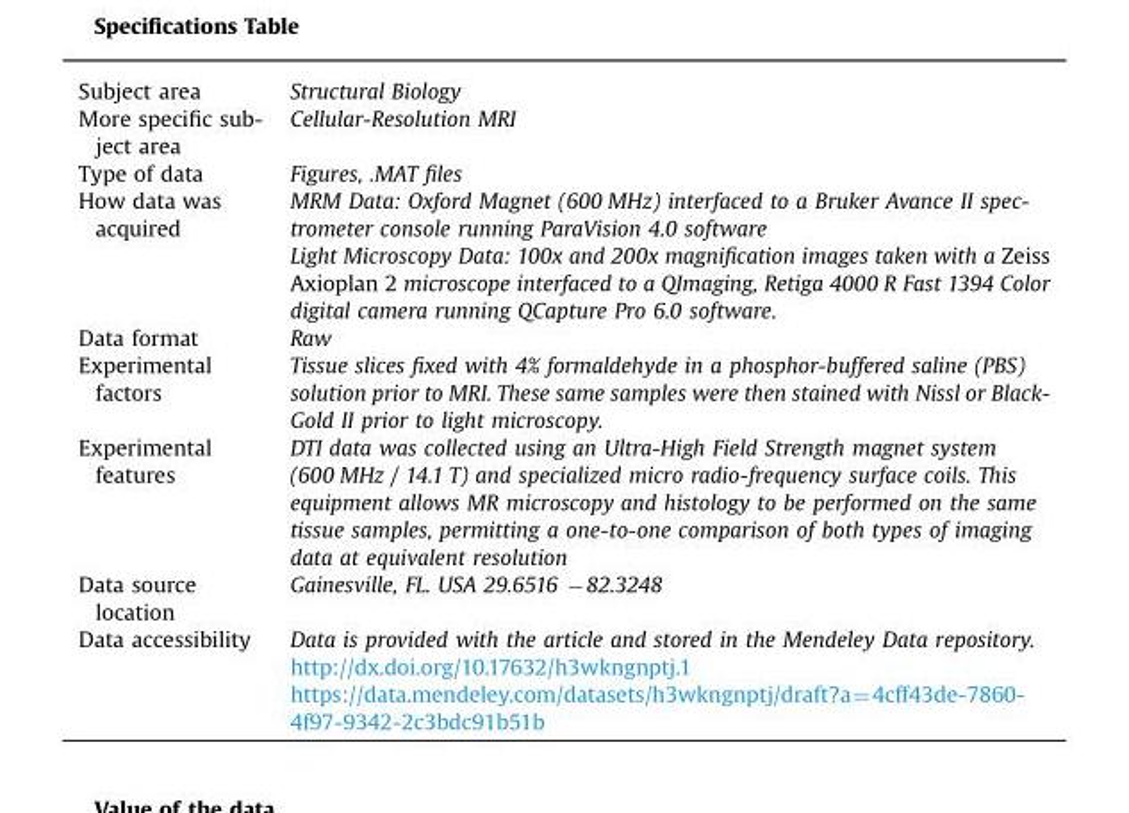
<table><tbody><tr><td>Subject area</td><td>Structural Biology</td></tr><tr><td>More specific sub- ject area</td><td>Cellular-Resolution MRI</td></tr><tr><td>Type of data</td><td>Figures, .MAT files</td></tr><tr><td rowspan="2">How data was acquired</td><td>MRM Data: Oxford Magnet (600 MHz) interfaced to a Bruker Avance II spec- trometer console running ParaVision 4.0 software</td></tr><tr><td>Light Microscopy Data: 100x and 200x magnification images taken with a Zeiss Axioplan 2 microscope interfaced to a QImaging, Retiga 4000 R Fast 1394 Color digital camera running QCapture Pro 6.0 software.</td></tr><tr><td>Data format</td><td>Raw</td></tr><tr><td>Experimental factors</td><td>Tissue slices fixed with 4% formaldehyde in a phosphor-buffered saline (PBS) solution prior to MRI. These same samples were then stained with Nissl or Black- Gold II prior to light microscopy.</td></tr><tr><td>Experimental features</td><td>DTI data was collected using an Ultra-High Field Strength magnet system (600 MHz / 14.1 T) and specialized micro radio-frequency surface coils. This equipment allows MR microscopy and histology to be performed on the same tissue samples, permitting a one-to-one comparison of both types of imaging data at equivalent resolution</td></tr><tr><td>Data source location</td><td>Gainesville, FL. USA 29.6516 −82.3248</td></tr><tr><td rowspan="3">Data accessibility</td><td>Data is provided with the article and stored in the Mendeley Data repository.</td></tr><tr><td>http://dx.doi.org/10.17632/h3wkngnptj.1</td></tr><tr><td>https://data.mendeley.com/datasets/h3wkngnptj/draft?a=4cff43de-7860- 4f97-9342-2c3bdc91b51b</td></tr></tbody></table>